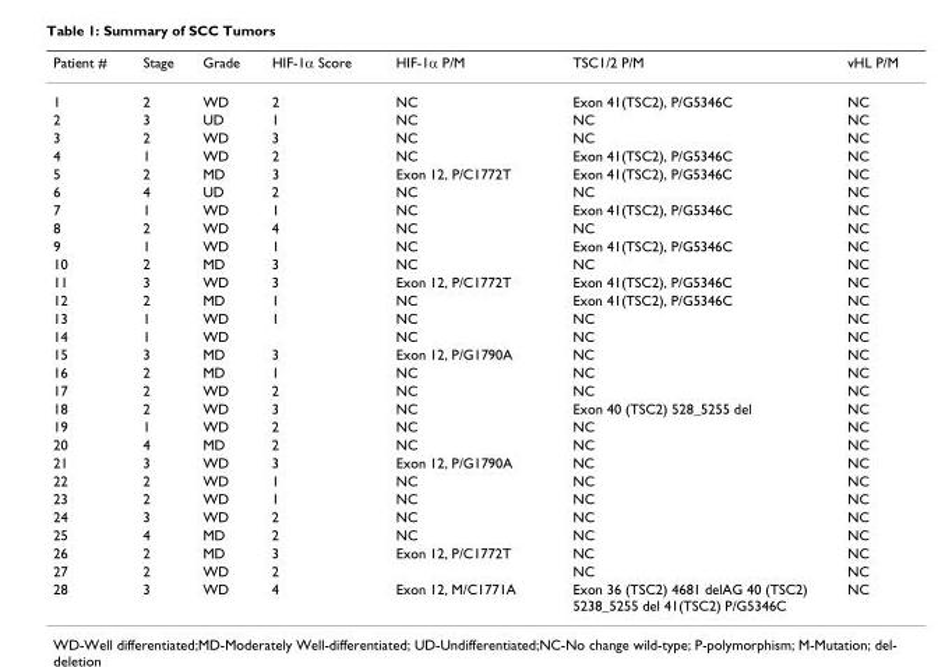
<table><thead><tr><td>Patient #</td><td>Stage</td><td>Grade</td><td>HIF-1α Score</td><td>HIF-1α P/M</td><td>TSC1/2 P/M</td><td>vHL P/M</td></tr></thead><tbody><tr><td>1</td><td>2</td><td>WD</td><td>2</td><td>NC</td><td>Exon 41(TSC2), P/G5346C</td><td>NC</td></tr><tr><td>2</td><td>3</td><td>UD</td><td>1</td><td>NC</td><td>NC</td><td>NC</td></tr><tr><td>3</td><td>2</td><td>WD</td><td>3</td><td>NC</td><td>NC</td><td>NC</td></tr><tr><td>4</td><td>1</td><td>WD</td><td>2</td><td>NC</td><td>Exon 41(TSC2), P/G5346C</td><td>NC</td></tr><tr><td>5</td><td>2</td><td>MD</td><td>3</td><td>Exon 12, P/C1772T</td><td>Exon 41(TSC2), P/G5346C</td><td>NC</td></tr><tr><td>6</td><td>4</td><td>UD</td><td>2</td><td>NC</td><td>NC</td><td>NC</td></tr><tr><td>7</td><td>1</td><td>WD</td><td>1</td><td>NC</td><td>Exon 41(TSC2), P/G5346C</td><td>NC</td></tr><tr><td>8</td><td>2</td><td>WD</td><td>4</td><td>NC</td><td>NC</td><td>NC</td></tr><tr><td>9</td><td>1</td><td>WD</td><td>1</td><td>NC</td><td>Exon 41(TSC2), P/G5346C</td><td>NC</td></tr><tr><td>10</td><td>2</td><td>MD</td><td>3</td><td>NC</td><td>NC</td><td>NC</td></tr><tr><td>11</td><td>3</td><td>WD</td><td>3</td><td>Exon 12, P/C1772T</td><td>Exon 41(TSC2), P/G5346C</td><td>NC</td></tr><tr><td>12</td><td>2</td><td>MD</td><td>1</td><td>NC</td><td>Exon 41(TSC2), P/G5346C</td><td>NC</td></tr><tr><td>13</td><td>1</td><td>WD</td><td>1</td><td>NC</td><td>NC</td><td>NC</td></tr><tr><td>14</td><td>1</td><td>WD</td><td></td><td>NC</td><td>NC</td><td>NC</td></tr><tr><td>15</td><td>3</td><td>MD</td><td>3</td><td>Exon 12, P/G1790A</td><td>NC</td><td>NC</td></tr><tr><td>16</td><td>2</td><td>MD</td><td>1</td><td>NC</td><td>NC</td><td>NC</td></tr><tr><td>17</td><td>2</td><td>WD</td><td>2</td><td>NC</td><td>NC</td><td>NC</td></tr><tr><td>18</td><td>2</td><td>WD</td><td>3</td><td>NC</td><td>Exon 40 (TSC2) 528_5255 del</td><td>NC</td></tr><tr><td>19</td><td>1</td><td>WD</td><td>2</td><td>NC</td><td>NC</td><td>NC</td></tr><tr><td>20</td><td>4</td><td>MD</td><td>2</td><td>NC</td><td>NC</td><td>NC</td></tr><tr><td>21</td><td>3</td><td>WD</td><td>3</td><td>Exon 12, P/G1790A</td><td>NC</td><td>NC</td></tr><tr><td>22</td><td>2</td><td>WD</td><td>1</td><td>NC</td><td>NC</td><td>NC</td></tr><tr><td>23</td><td>2</td><td>WD</td><td>1</td><td>NC</td><td>NC</td><td>NC</td></tr><tr><td>24</td><td>3</td><td>WD</td><td>2</td><td>NC</td><td>NC</td><td>NC</td></tr><tr><td>25</td><td>4</td><td>MD</td><td>2</td><td>NC</td><td>NC</td><td>NC</td></tr><tr><td>26</td><td>2</td><td>MD</td><td>3</td><td>Exon 12, P/C1772T</td><td>NC</td><td>NC</td></tr><tr><td>27</td><td>2</td><td>WD</td><td>2</td><td></td><td>NC</td><td>NC</td></tr><tr><td>28</td><td>3</td><td>WD</td><td>4</td><td>Exon 12, M/C1771A</td><td>Exon 36 (TSC2) 4681 delAG 40 (TSC2) 5238_5255 del 41(TSC2) P/G5346C</td><td>NC</td></tr></tbody></table>